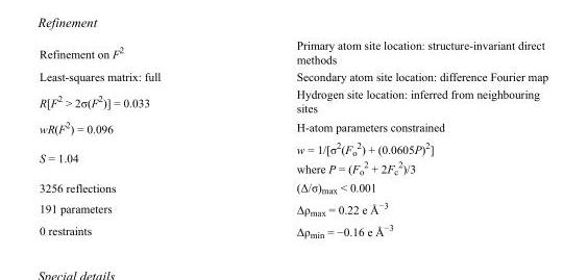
<table><tbody><tr><td>Refinement on F<sup>2</sup></td><td>Primary atom site location: structure-invariant direct methods</td></tr><tr><td>Least-squares matrix: full</td><td>Secondary atom site location: difference Fourier map</td></tr><tr><td>R[F<sup>2</sup> &gt; 2σ(F<sup>2</sup>)] = 0.033</td><td>Hydrogen site location: inferred from neighbouring sites</td></tr><tr><td>wR(F<sup>2</sup>) = 0.096</td><td>H-atom parameters constrained</td></tr><tr><td>S = 1.04</td><td>w = 1/[σ<sup>2</sup>(F<sub>o</sub> <sup>2</sup>) + (0.0605P)<sup>2</sup>] where P = (F<sub>o</sub> <sup>2</sup> + 2F<sub>c</sub> <sup>2</sup>)/3</td></tr><tr><td>3256 reflections</td><td>(Δ/σ)<sub>max</sub> &lt; 0.001</td></tr><tr><td>191 parameters</td><td>Δρ<sub>max</sub> = 0.22 e Å<sup>−3</sup></td></tr><tr><td>0 restraints</td><td>Δρ<sub>min</sub> = −0.16 e Å<sup>−3</sup></td></tr></tbody></table>